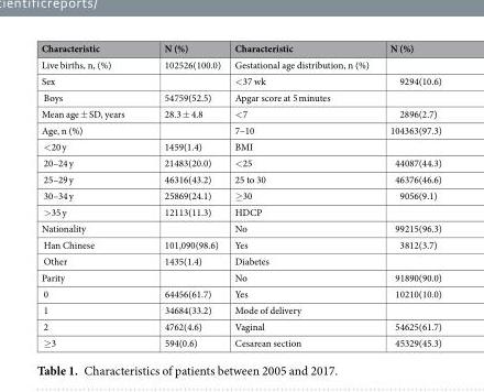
<table><thead><tr><td>Characteristic</td><td>N (%)</td><td>Characteristic</td><td>N (%)</td></tr></thead><tbody><tr><td>Live births, n, (%)</td><td>102526(100.0)</td><td>Gestational age distribution, n (%)</td><td></td></tr><tr><td>Sex</td><td></td><td>&lt;37 wk</td><td>9294(10.6)</td></tr><tr><td>Boys</td><td>54759(52.5)</td><td>Apgar score at 5 minutes</td><td></td></tr><tr><td>Mean age ± SD, years</td><td>28.3 ± 4.8</td><td>&lt;7</td><td>2896(2.7)</td></tr><tr><td>Age, n (%)</td><td></td><td>7–10</td><td>104363(97.3)</td></tr><tr><td>&lt;20 y</td><td>1459(1.4)</td><td>BMI</td><td></td></tr><tr><td>20–24 y</td><td>21483(20.0)</td><td>&lt;25</td><td>44087(44.3)</td></tr><tr><td>25–29 y</td><td>46316(43.2)</td><td>25 to 30</td><td>46376(46.6)</td></tr><tr><td>30–34 y</td><td>25869(24.1)</td><td>≥30</td><td>9056(9.1)</td></tr><tr><td>&gt;35 y</td><td>12113(11.3)</td><td>HDCP</td><td></td></tr><tr><td>Nationality</td><td></td><td>No</td><td>99215(96.3)</td></tr><tr><td>Han Chinese</td><td>101,090(98.6)</td><td>Yes</td><td>3812(3.7)</td></tr><tr><td>Other</td><td>1435(1.4)</td><td>Diabetes</td><td></td></tr><tr><td>Parity</td><td></td><td>No</td><td>91890(90.0)</td></tr><tr><td>0</td><td>64456(61.7)</td><td>Yes</td><td>10210(10.0)</td></tr><tr><td>1</td><td>34684(33.2)</td><td>Mode of delivery</td><td></td></tr><tr><td>2</td><td>4762(4.6)</td><td>Vaginal</td><td>54625(61.7)</td></tr><tr><td>≥3</td><td>594(0.6)</td><td>Cesarean section</td><td>45329(45.3)</td></tr></tbody></table>